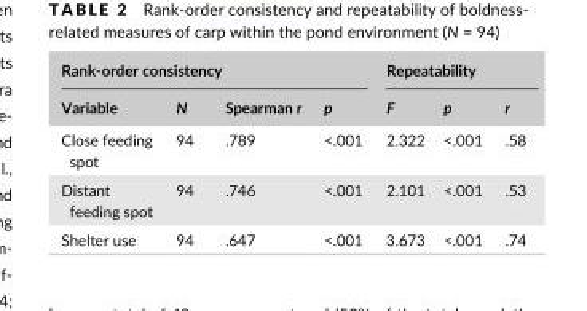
<table><thead><tr><td colspan="4">Rank- order consistency</td><td colspan="3">Repeatability</td></tr><tr><td>Variable</td><td>N</td><td>Spearman r</td><td>p</td><td>F</td><td>p</td><td>r</td></tr></thead><tbody><tr><td>Close feeding spot</td><td>94</td><td>.789</td><td>&lt;.001</td><td>2.322</td><td>&lt;.001</td><td>.58</td></tr><tr><td>Distant feeding spot</td><td>94</td><td>.746</td><td>&lt;.001</td><td>2.101</td><td>&lt;.001</td><td>.53</td></tr><tr><td>Shelter use</td><td>94</td><td>.647</td><td>&lt;.001</td><td>3.673</td><td>&lt;.001</td><td>.74</td></tr></tbody></table>